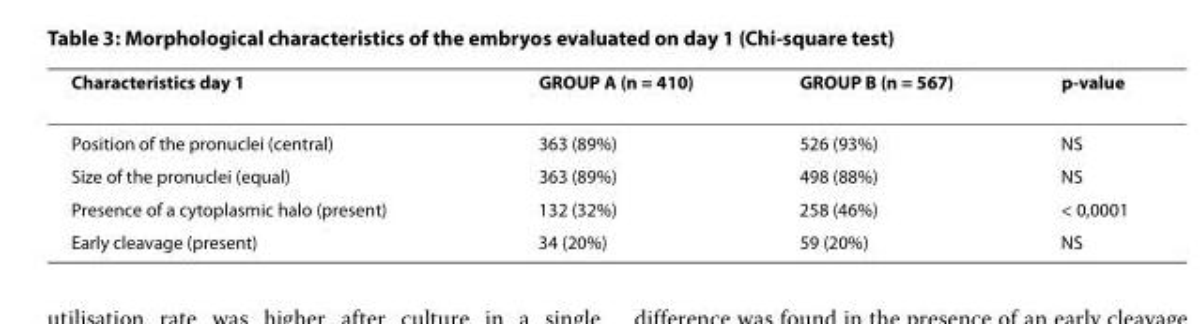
<table><thead><tr><td>Characteristics day 1</td><td>GROUP A (n = 410)</td><td>GROUP B (n = 567)</td><td>p-value</td></tr></thead><tbody><tr><td>Position of the pronuclei (central)</td><td>363 (89%)</td><td>526 (93%)</td><td>NS</td></tr><tr><td>Size of the pronuclei (equal)</td><td>363 (89%)</td><td>498 (88%)</td><td>NS</td></tr><tr><td>Presence of a cytoplasmic halo (present)</td><td>132 (32%)</td><td>258 (46%)</td><td>&lt; 0,0001</td></tr><tr><td>Early cleavage (present)</td><td>34 (20%)</td><td>59 (20%)</td><td>NS</td></tr></tbody></table>